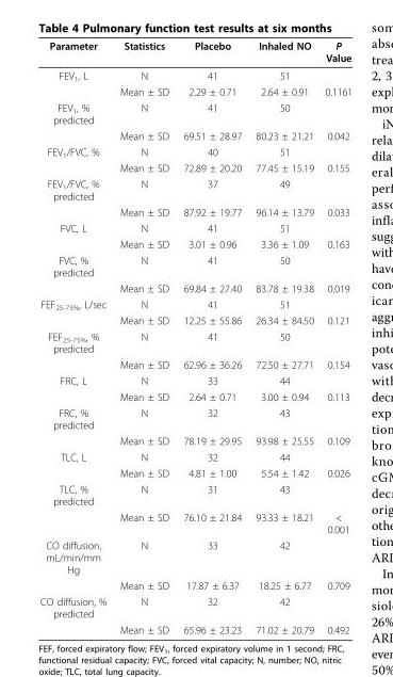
<table><thead><tr><td>Parameter</td><td>Statistics</td><td>Placebo</td><td>Inhaled NO</td><td>P Value</td></tr></thead><tbody><tr><td rowspan="2">FEV<sub>1</sub>, L</td><td>N</td><td>41</td><td>51</td><td></td></tr><tr><td>Mean ± SD</td><td>2.29 ± 0.71</td><td>2.64 ± 0.91</td><td>0.1161</td></tr><tr><td rowspan="2">FEV<sub>1</sub>, % predicted</td><td>N</td><td>41</td><td>50</td><td></td></tr><tr><td>Mean ± SD</td><td>69.51 ± 28.97</td><td>80.23 ± 21.21</td><td>0.042</td></tr><tr><td rowspan="2">FEV<sub>1</sub>/FVC, %</td><td>N</td><td>40</td><td>51</td><td></td></tr><tr><td>Mean ± SD</td><td>72.89 ± 20.20</td><td>77.45 ± 15.19</td><td>0.155</td></tr><tr><td rowspan="2">FEV<sub>1</sub>/FVC, % predicted</td><td>N</td><td>37</td><td>49</td><td></td></tr><tr><td>Mean ± SD</td><td>87.92 ± 19.77</td><td>96.14 ± 13.79</td><td>0.033</td></tr><tr><td rowspan="2">FVC, L</td><td>N</td><td>41</td><td>51</td><td></td></tr><tr><td>Mean ± SD</td><td>3.01 ± 0.96</td><td>3.36 ± 1.09</td><td>0.163</td></tr><tr><td rowspan="2">FVC, % predicted</td><td>N</td><td>41</td><td>50</td><td></td></tr><tr><td>Mean ± SD</td><td>69.84 ± 27.40</td><td>83.78 ± 19.38</td><td>0.019</td></tr><tr><td rowspan="2">FEF<sub>25-75%</sub>, L/sec</td><td>N</td><td>41</td><td>51</td><td></td></tr><tr><td>Mean ± SD</td><td>12.25 ± 55.86</td><td>26.34 ± 84.50</td><td>0.121</td></tr><tr><td rowspan="2">FEF<sub>25-75%</sub>, % predicted</td><td>N</td><td>41</td><td>50</td><td></td></tr><tr><td>Mean ± SD</td><td>62.96 ± 36.26</td><td>72.50 ± 27.71</td><td>0.154</td></tr><tr><td rowspan="2">FRC, L</td><td>N</td><td>33</td><td>44</td><td></td></tr><tr><td>Mean ± SD</td><td>2.64 ± 0.71</td><td>3.00 ± 0.94</td><td>0.113</td></tr><tr><td rowspan="2">FRC, % predicted</td><td>N</td><td>32</td><td>43</td><td></td></tr><tr><td>Mean ± SD</td><td>78.19 ± 29.95</td><td>93.98 ± 25.55</td><td>0.109</td></tr><tr><td rowspan="2">TLC, L</td><td>N</td><td>32</td><td>44</td><td></td></tr><tr><td>Mean ± SD</td><td>4.81 ± 1.00</td><td>5.54 ± 1.42</td><td>0.026</td></tr><tr><td rowspan="2">TLC, % predicted</td><td>N</td><td>31</td><td>43</td><td></td></tr><tr><td>Mean ± SD</td><td>76.10 ± 21.84</td><td>93.33 ± 18.21</td><td>&lt; 0.001</td></tr><tr><td rowspan="2">CO diffusion, mL/min/mm Hg</td><td>N</td><td>33</td><td>42</td><td></td></tr><tr><td>Mean ± SD</td><td>17.87 ± 6.37</td><td>18.25 ± 6.77</td><td>0.709</td></tr><tr><td rowspan="2">CO diffusion, % predicted</td><td>N</td><td>32</td><td>42</td><td></td></tr><tr><td>Mean ± SD</td><td>65.96 ± 23.23</td><td>71.02 ± 20.79</td><td>0.492</td></tr></tbody></table>